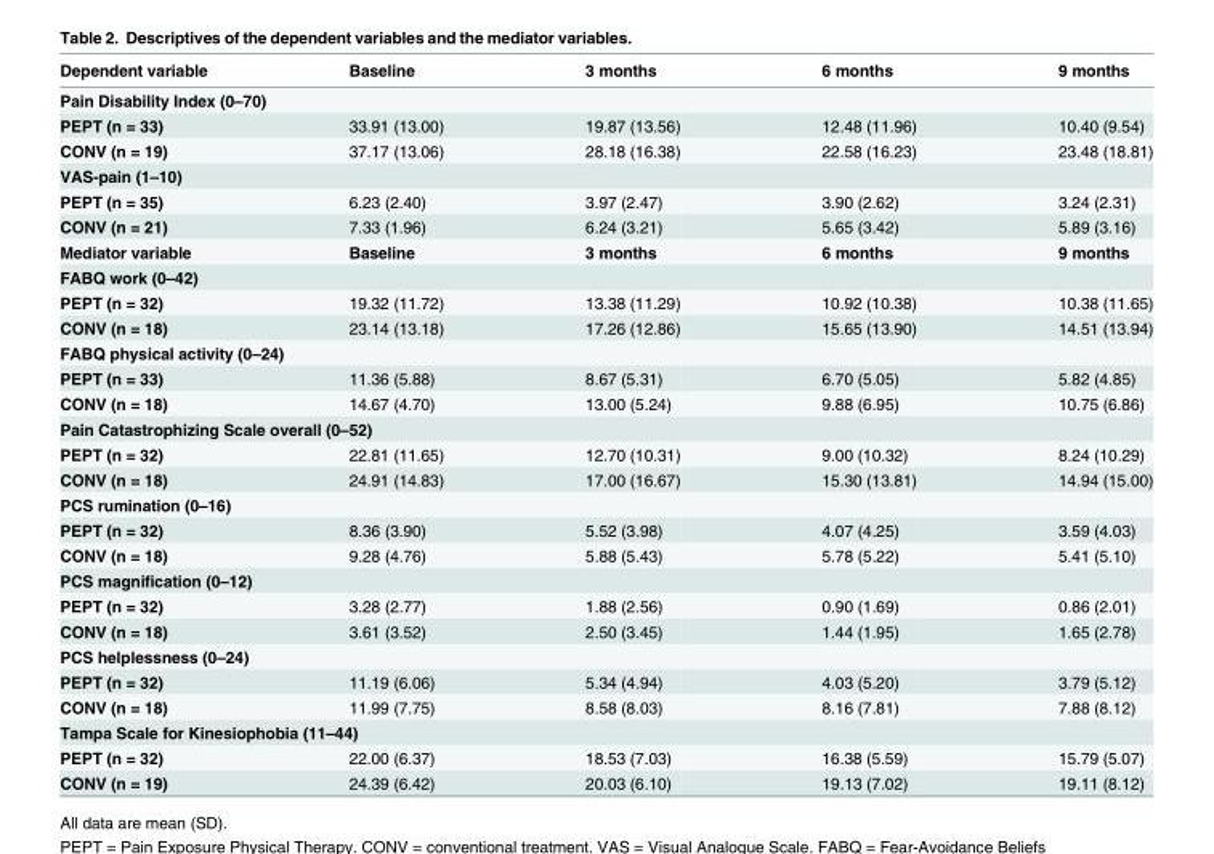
<table><thead><tr><td>Dependent variable</td><td>Baseline</td><td>3 months</td><td>6 months</td><td>9 months</td></tr></thead><tbody><tr><td colspan="5">Pain Disability Index (0–70)</td></tr><tr><td>PEPT (n = 33)</td><td>33.91 (13.00)</td><td>19.87 (13.56)</td><td>12.48 (11.96)</td><td>10.40 (9.54)</td></tr><tr><td>CONV (n = 19)</td><td>37.17 (13.06)</td><td>28.18 (16.38)</td><td>22.58 (16.23)</td><td>23.48 (18.81)</td></tr><tr><td colspan="5">VAS-pain (1–10)</td></tr><tr><td>PEPT (n = 35)</td><td>6.23 (2.40)</td><td>3.97 (2.47)</td><td>3.90 (2.62)</td><td>3.24 (2.31)</td></tr><tr><td>CONV (n = 21)</td><td>7.33 (1.96)</td><td>6.24 (3.21)</td><td>5.65 (3.42)</td><td>5.89 (3.16)</td></tr><tr><td>Mediator variable</td><td>Baseline</td><td>3 months</td><td>6 months</td><td>9 months</td></tr><tr><td colspan="5">FABQ work (0–42)</td></tr><tr><td>PEPT (n = 32)</td><td>19.32 (11.72)</td><td>13.38 (11.29)</td><td>10.92 (10.38)</td><td>10.38 (11.65)</td></tr><tr><td>CONV (n = 18)</td><td>23.14 (13.18)</td><td>17.26 (12.86)</td><td>15.65 (13.90)</td><td>14.51 (13.94)</td></tr><tr><td colspan="5">FABQ physical activity (0–24)</td></tr><tr><td>PEPT (n = 33)</td><td>11.36 (5.88)</td><td>8.67 (5.31)</td><td>6.70 (5.05)</td><td>5.82 (4.85)</td></tr><tr><td>CONV (n = 18)</td><td>14.67 (4.70)</td><td>13.00 (5.24)</td><td>9.88 (6.95)</td><td>10.75 (6.86)</td></tr><tr><td colspan="5">Pain Catastrophizing Scale overall (0–52)</td></tr><tr><td>PEPT (n = 32)</td><td>22.81 (11.65)</td><td>12.70 (10.31)</td><td>9.00 (10.32)</td><td>8.24 (10.29)</td></tr><tr><td>CONV (n = 18)</td><td>24.91 (14.83)</td><td>17.00 (16.67)</td><td>15.30 (13.81)</td><td>14.94 (15.00)</td></tr><tr><td colspan="5">PCS rumination (0–16)</td></tr><tr><td>PEPT (n = 32)</td><td>8.36 (3.90)</td><td>5.52 (3.98)</td><td>4.07 (4.25)</td><td>3.59 (4.03)</td></tr><tr><td>CONV (n = 18)</td><td>9.28 (4.76)</td><td>5.88 (5.43)</td><td>5.78 (5.22)</td><td>5.41 (5.10)</td></tr><tr><td colspan="5">PCS magnification (0–12)</td></tr><tr><td>PEPT (n = 32)</td><td>3.28 (2.77)</td><td>1.88 (2.56)</td><td>0.90 (1.69)</td><td>0.86 (2.01)</td></tr><tr><td>CONV (n = 18)</td><td>3.61 (3.52)</td><td>2.50 (3.45)</td><td>1.44 (1.95)</td><td>1.65 (2.78)</td></tr><tr><td colspan="5">PCS helplessness (0–24)</td></tr><tr><td>PEPT (n = 32)</td><td>11.19 (6.06)</td><td>5.34 (4.94)</td><td>4.03 (5.20)</td><td>3.79 (5.12)</td></tr><tr><td>CONV (n = 18)</td><td>11.99 (7.75)</td><td>8.58 (8.03)</td><td>8.16 (7.81)</td><td>7.88 (8.12)</td></tr><tr><td colspan="5">Tampa Scale for Kinesiophobia (11–44)</td></tr><tr><td>PEPT (n = 32)</td><td>22.00 (6.37)</td><td>18.53 (7.03)</td><td>16.38 (5.59)</td><td>15.79 (5.07)</td></tr><tr><td>CONV (n = 19)</td><td>24.39 (6.42)</td><td>20.03 (6.10)</td><td>19.13 (7.02)</td><td>19.11 (8.12)</td></tr></tbody></table>